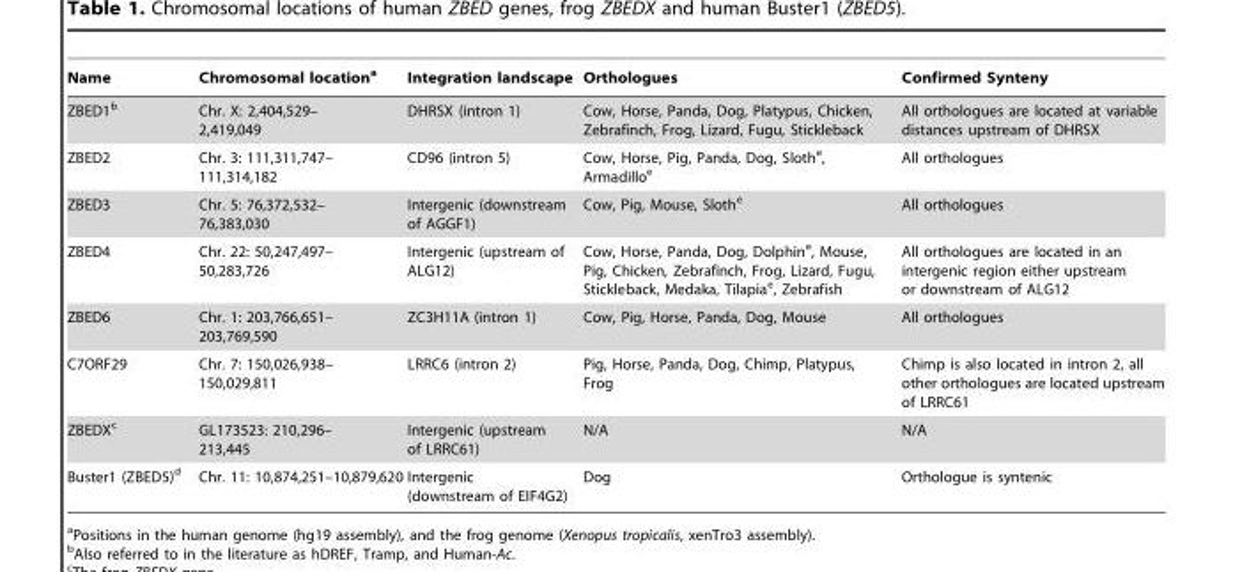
<table><thead><tr><td>Name</td><td>Chromosomal location<sup>a</sup></td><td>Integration landscape</td><td>Orthologues</td><td>Confirmed Synteny</td></tr></thead><tbody><tr><td>ZBED1<sup>b</sup></td><td>Chr. X: 2,404,529– 2,419,049</td><td>DHRSX (intron 1)</td><td>Cow, Horse, Panda, Dog, Platypus, Chicken, Zebrafinch, Frog, Lizard, Fugu, Stickleback</td><td>All orthologues are located at variable distances upstream of DHRSX</td></tr><tr><td>ZBED2</td><td>Chr. 3: 111,311,747– 111,314,182</td><td>CD96 (intron 5)</td><td>Cow, Horse, Pig, Panda, Dog, Sloth<sup>e</sup>, Armadillo<sup>e</sup></td><td>All orthologues</td></tr><tr><td>ZBED3</td><td>Chr. 5: 76,372,532– 76,383,030</td><td>Intergenic (downstream of AGGF1)</td><td>Cow, Pig, Mouse, Sloth<sup>e</sup></td><td>All orthologues</td></tr><tr><td>ZBED4</td><td>Chr. 22: 50,247,497– 50,283,726</td><td>Intergenic (upstream of ALG12)</td><td>Cow, Horse, Panda, Dog, Dolphin<sup>e</sup>, Mouse, Pig, Chicken, Zebrafinch, Frog, Lizard, Fugu, Stickleback, Medaka, Tilapia<sup>e</sup>, Zebrafish</td><td>All orthologues are located in an intergenic region either upstream or downstream of ALG12</td></tr><tr><td>ZBED6</td><td>Chr. 1: 203,766,651– 203,769,590</td><td>ZC3H11A (intron 1)</td><td>Cow, Pig, Horse, Panda, Dog, Mouse</td><td>All orthologues</td></tr><tr><td>C7ORF29</td><td>Chr. 7: 150,026,938– 150,029,811</td><td>LRRC6 (intron 2)</td><td>Pig, Horse, Panda, Dog, Chimp, Platypus, Frog</td><td>Chimp is also located in intron 2, all other orthologues are located upstream of LRRC61</td></tr><tr><td>ZBEDX<sup>c</sup></td><td>GL173523: 210,296– 213,445</td><td>Intergenic (upstream of LRRC61)</td><td>N/A</td><td>N/A</td></tr><tr><td>Buster1 (ZBED5)<sup>d</sup></td><td>Chr. 11: 10,874,251–10,879,620</td><td>Intergenic (downstream of EIF4G2)</td><td>Dog</td><td>Orthologue is syntenic</td></tr></tbody></table>